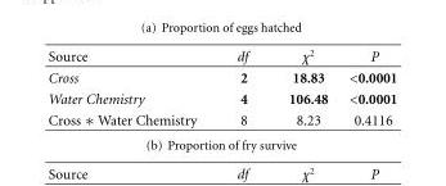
<table><thead><tr><td>Source</td><td>df</td><td>χ<sup>2</sup></td><td>P</td></tr></thead><tbody><tr><td>Cross</td><td>2</td><td>18.83</td><td>&lt;0.0001</td></tr><tr><td>Water Chemistry</td><td>4</td><td>106.48</td><td>&lt;0.0001</td></tr><tr><td>Cross ∗ Water Chemistry</td><td>8</td><td>8.23</td><td>0.4116</td></tr></tbody></table>